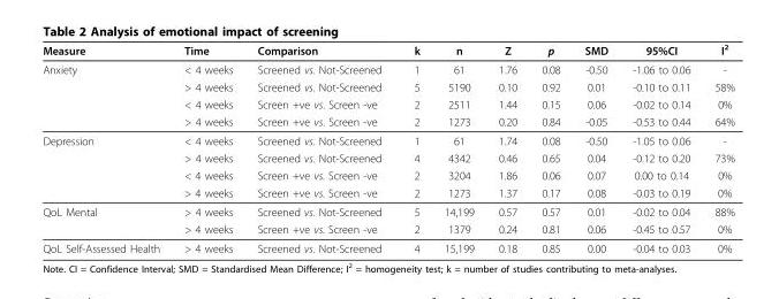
<table><thead><tr><td>Measure</td><td>Time</td><td>Comparison</td><td>k</td><td>n</td><td>Z</td><td>p</td><td>SMD</td><td>95%CI</td><td>I<sup>2</sup></td></tr></thead><tbody><tr><td rowspan="4">Anxiety</td><td>&lt; 4 weeks</td><td>Screened vs. Not-Screened</td><td>1</td><td>61</td><td>1.76</td><td>0.08</td><td>-0.50</td><td>-1.06 to 0.06</td><td>-</td></tr><tr><td>&gt; 4 weeks</td><td>Screened vs. Not-Screened</td><td>5</td><td>5190</td><td>0.10</td><td>0.92</td><td>0.01</td><td>-0.10 to 0.11</td><td>58%</td></tr><tr><td>&lt; 4 weeks</td><td>Screen +ve vs. Screen -ve</td><td>2</td><td>2511</td><td>1.44</td><td>0.15</td><td>0.06</td><td>-0.02 to 0.14</td><td>0%</td></tr><tr><td>&gt; 4 weeks</td><td>Screen +ve vs. Screen -ve</td><td>2</td><td>1273</td><td>0.20</td><td>0.84</td><td>-0.05</td><td>-0.53 to 0.44</td><td>64%</td></tr><tr><td rowspan="4">Depression</td><td>&lt; 4 weeks</td><td>Screened vs. Not-Screened</td><td>1</td><td>61</td><td>1.74</td><td>0.08</td><td>-0.50</td><td>-1.05 to 0.06</td><td>-</td></tr><tr><td>&gt; 4 weeks</td><td>Screened vs. Not-Screened</td><td>4</td><td>4342</td><td>0.46</td><td>0.65</td><td>0.04</td><td>-0.12 to 0.20</td><td>73%</td></tr><tr><td>&lt; 4 weeks</td><td>Screen +ve vs. Screen -ve</td><td>2</td><td>3204</td><td>1.86</td><td>0.06</td><td>0.07</td><td>0.00 to 0.14</td><td>0%</td></tr><tr><td>&gt; 4 weeks</td><td>Screen +ve vs. Screen -ve</td><td>2</td><td>1273</td><td>1.37</td><td>0.17</td><td>0.08</td><td>-0.03 to 0.19</td><td>0%</td></tr><tr><td rowspan="2">QoL Mental</td><td>&gt; 4 weeks</td><td>Screened vs. Not-Screened</td><td>5</td><td>14,199</td><td>0.57</td><td>0.57</td><td>0.01</td><td>-0.02 to 0.04</td><td>88%</td></tr><tr><td>&gt; 4 weeks</td><td>Screen +ve vs. Screen -ve</td><td>2</td><td>1379</td><td>0.24</td><td>0.81</td><td>0.06</td><td>-0.45 to 0.57</td><td>0%</td></tr><tr><td>QoL Self-Assessed Health</td><td>&gt; 4 weeks</td><td>Screened vs. Not-Screened</td><td>4</td><td>15,199</td><td>0.18</td><td>0.85</td><td>0.00</td><td>-0.04 to 0.03</td><td>0%</td></tr></tbody></table>